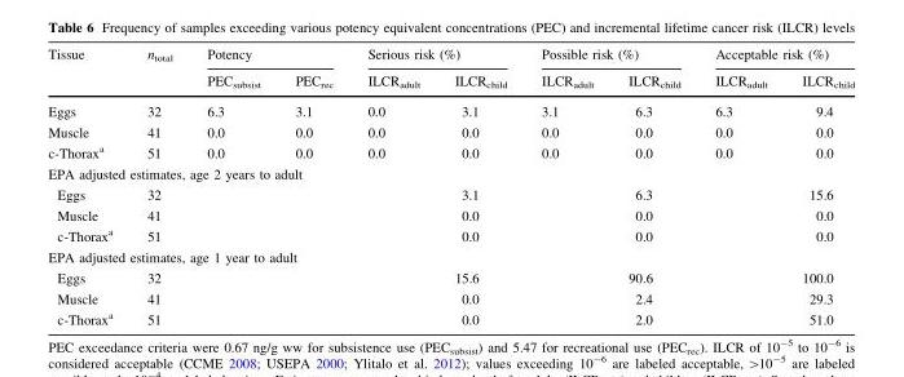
<table><thead><tr><td rowspan="2">Tissue</td><td rowspan="2">n<sub>total</sub></td><td colspan="2">Potency</td><td colspan="2">Serious risk (%)</td><td colspan="2">Possible risk (%)</td><td colspan="2">Acceptable risk (%)</td></tr><tr><td>PEC<sub>subsist</sub></td><td>PEC<sub>rec</sub></td><td>ILCR<sub>adult</sub></td><td>ILCR<sub>child</sub></td><td>ILCR<sub>adult</sub></td><td>ILCR<sub>child</sub></td><td>ILCR<sub>adult</sub></td><td>ILCR<sub>child</sub></td></tr></thead><tbody><tr><td>Eggs</td><td>32</td><td>6.3</td><td>3.1</td><td>0.0</td><td>3.1</td><td>3.1</td><td>6.3</td><td>6.3</td><td>9.4</td></tr><tr><td>Muscle</td><td>41</td><td>0.0</td><td>0.0</td><td>0.0</td><td>0.0</td><td>0.0</td><td>0.0</td><td>0.0</td><td>0.0</td></tr><tr><td>c-Thorax<sup>a</sup></td><td>51</td><td>0.0</td><td>0.0</td><td>0.0</td><td>0.0</td><td>0.0</td><td>0.0</td><td>0.0</td><td>0.0</td></tr><tr><td colspan="10">EPA adjusted estimates, age 2 years to adult</td></tr><tr><td>Eggs</td><td>32</td><td></td><td></td><td></td><td>3.1</td><td></td><td>6.3</td><td></td><td>15.6</td></tr><tr><td>Muscle</td><td>41</td><td></td><td></td><td></td><td>0.0</td><td></td><td>0.0</td><td></td><td>0.0</td></tr><tr><td>c-Thorax<sup>a</sup></td><td>51</td><td></td><td></td><td></td><td>0.0</td><td></td><td>0.0</td><td></td><td>0.0</td></tr><tr><td colspan="10">EPA adjusted estimates, age 1 year to adult</td></tr><tr><td>Eggs</td><td>32</td><td></td><td></td><td></td><td>15.6</td><td></td><td>90.6</td><td></td><td>100.0</td></tr><tr><td>Muscle</td><td>41</td><td></td><td></td><td></td><td>0.0</td><td></td><td>2.4</td><td></td><td>29.3</td></tr><tr><td>c-Thorax<sup>a</sup></td><td>51</td><td></td><td></td><td></td><td>0.0</td><td></td><td>2.0</td><td></td><td>51.0</td></tr></tbody></table>